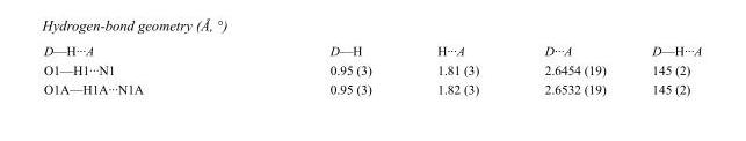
<table><tbody><tr><td>D—H···A</td><td>D—H</td><td>H···A</td><td>D···A</td><td>D—H···A</td></tr><tr><td>O1—H1···N1</td><td>0.95 (3)</td><td>1.81 (3)</td><td>2.6454 (19)</td><td>145 (2)</td></tr><tr><td>O1A—H1A···N1A</td><td>0.95 (3)</td><td>1.82 (3)</td><td>2.6532 (19)</td><td>145 (2)</td></tr></tbody></table>